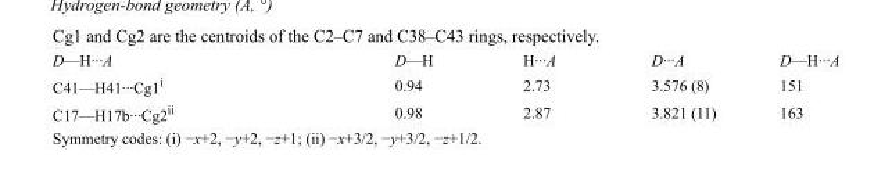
<table><tbody><tr><td>D—H···A</td><td>D—H</td><td>H···A</td><td>D···A</td><td>D—H···A</td></tr><tr><td>C41—H41···Cg1<sup>i</sup></td><td>0.94</td><td>2.73</td><td>3.576 (8)</td><td>151</td></tr><tr><td>C17—H17b···Cg2<sup>ii</sup></td><td>0.98</td><td>2.87</td><td>3.821 (11)</td><td>163</td></tr></tbody></table>